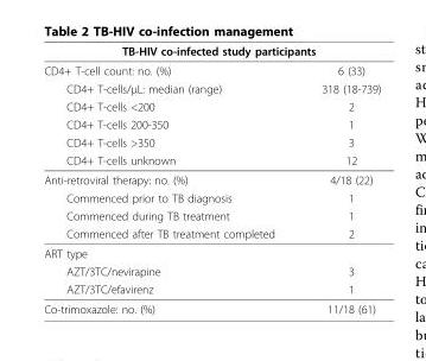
<table><thead><tr><td colspan="2">TB-HIV co-infected study participants</td></tr><tr><td>CD4+ T-cell count: no. (%)</td><td>6 (33)</td></tr></thead><tbody><tr><td>CD4+ T-cells/μL: median (range)</td><td>318 (18-739)</td></tr><tr><td>CD4+ T-cells &lt;200</td><td>2</td></tr><tr><td>CD4+ T-cells 200-350</td><td>1</td></tr><tr><td>CD4+ T-cells &gt;350</td><td>3</td></tr><tr><td>CD4+ T-cells unknown</td><td>12</td></tr><tr><td>Anti-retroviral therapy: no. (%)</td><td>4/18 (22)</td></tr><tr><td>Commenced prior to TB diagnosis</td><td>1</td></tr><tr><td>Commenced during TB treatment</td><td>1</td></tr><tr><td>Commenced after TB treatment completed</td><td>2</td></tr><tr><td colspan="2">ART type</td></tr><tr><td>AZT/3TC/nevirapine</td><td>3</td></tr><tr><td>AZT/3TC/efavirenz</td><td>1</td></tr><tr><td>Co-trimoxazole: no. (%)</td><td>11/18 (61)</td></tr></tbody></table>